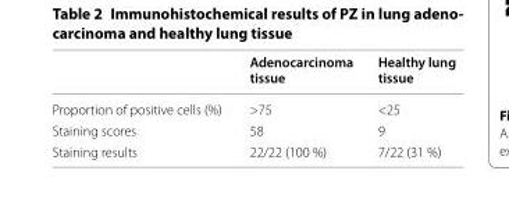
<table><thead><tr><td></td><td>Adenocarcinoma tissue</td><td>Healthy lung tissue</td></tr></thead><tbody><tr><td>Proportion of positive cells (%)</td><td>&gt;75</td><td>&lt;25</td></tr><tr><td>Staining scores</td><td>58</td><td>9</td></tr><tr><td>Staining results</td><td>22/22 (100 %)</td><td>7/22 (31 %)</td></tr></tbody></table>